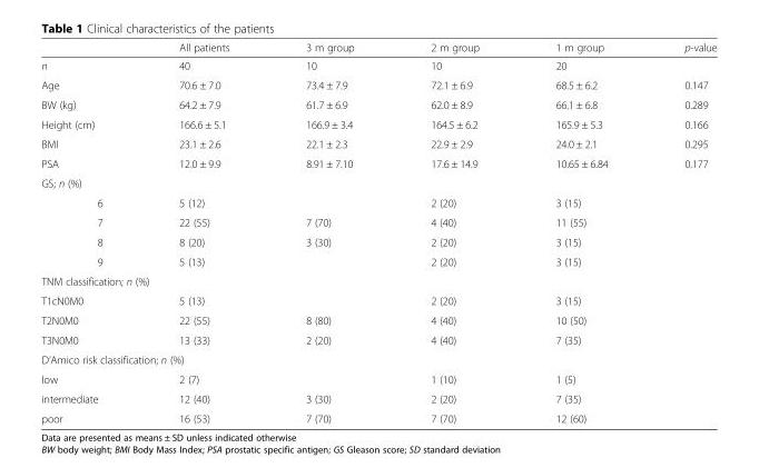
<table><thead><tr><td></td><td>All patients</td><td>3 m group</td><td>2 m group</td><td>1 m group</td><td>p-value</td></tr></thead><tbody><tr><td>n</td><td>40</td><td>10</td><td>10</td><td>20</td><td></td></tr><tr><td>Age</td><td>70.6 ± 7.0</td><td>73.4 ± 7.9</td><td>72.1 ± 6.9</td><td>68.5 ± 6.2</td><td>0.147</td></tr><tr><td>BW (kg)</td><td>64.2 ± 7.9</td><td>61.7 ± 6.9</td><td>62.0 ± 8.9</td><td>66.1 ± 6.8</td><td>0.289</td></tr><tr><td>Height (cm)</td><td>166.6 ± 5.1</td><td>166.9 ± 3.4</td><td>164.5 ± 6.2</td><td>165.9 ± 5.3</td><td>0.166</td></tr><tr><td>BMI</td><td>23.1 ± 2.6</td><td>22.1 ± 2.3</td><td>22.9 ± 2.9</td><td>24.0 ± 2.1</td><td>0.295</td></tr><tr><td>PSA</td><td>12.0 ± 9.9</td><td>8.91 ± 7.10</td><td>17.6 ± 14.9</td><td>10.65 ± 6.84</td><td>0.177</td></tr><tr><td colspan="6">GS; n (%)</td></tr><tr><td>6</td><td>5 (12)</td><td></td><td>2 (20)</td><td>3 (15)</td><td></td></tr><tr><td>7</td><td>22 (55)</td><td>7 (70)</td><td>4 (40)</td><td>11 (55)</td><td></td></tr><tr><td>8</td><td>8 (20)</td><td>3 (30)</td><td>2 (20)</td><td>3 (15)</td><td></td></tr><tr><td>9</td><td>5 (13)</td><td></td><td>2 (20)</td><td>3 (15)</td><td></td></tr><tr><td colspan="6">TNM classification; n (%)</td></tr><tr><td>T1cN0M0</td><td>5 (13)</td><td></td><td>2 (20)</td><td>3 (15)</td><td></td></tr><tr><td>T2N0M0</td><td>22 (55)</td><td>8 (80)</td><td>4 (40)</td><td>10 (50)</td><td></td></tr><tr><td>T3N0M0</td><td>13 (33)</td><td>2 (20)</td><td>4 (40)</td><td>7 (35)</td><td></td></tr><tr><td colspan="6">D’Amico risk classification; n (%)</td></tr><tr><td>low</td><td>2 (7)</td><td></td><td>1 (10)</td><td>1 (5)</td><td></td></tr><tr><td>intermediate</td><td>12 (40)</td><td>3 (30)</td><td>2 (20)</td><td>7 (35)</td><td></td></tr><tr><td>poor</td><td>16 (53)</td><td>7 (70)</td><td>7 (70)</td><td>12 (60)</td><td></td></tr></tbody></table>